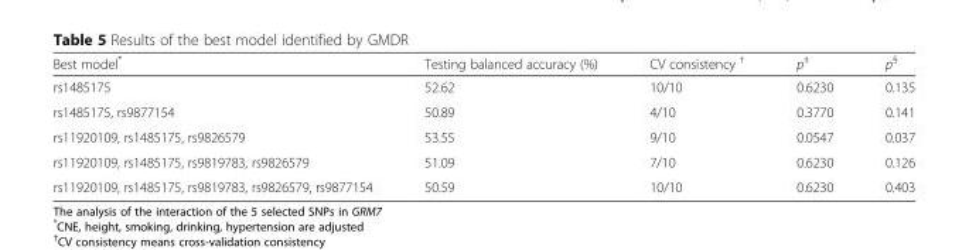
<table><thead><tr><td>Best model*</td><td>Testing balanced accuracy (%)</td><td>CV consistency <sup>†</sup></td><td>p<sup>‡</sup></td><td>p<sup>§</sup></td></tr></thead><tbody><tr><td>rs1485175</td><td>52.62</td><td>10/10</td><td>0.6230</td><td>0.135</td></tr><tr><td>rs1485175, rs9877154</td><td>50.89</td><td>4/10</td><td>0.3770</td><td>0.141</td></tr><tr><td>rs11920109, rs1485175, rs9826579</td><td>53.55</td><td>9/10</td><td>0.0547</td><td>0.037</td></tr><tr><td>rs11920109, rs1485175, rs9819783, rs9826579</td><td>51.09</td><td>7/10</td><td>0.6230</td><td>0.126</td></tr><tr><td>rs11920109, rs1485175, rs9819783, rs9826579, rs9877154</td><td>50.59</td><td>10/10</td><td>0.6230</td><td>0.403</td></tr></tbody></table>